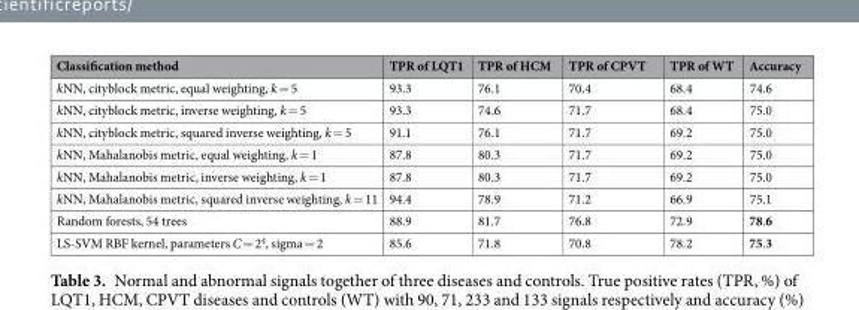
<table><thead><tr><td>Classification method</td><td>TPR of LQT1</td><td>TPR of HCM</td><td>TPR of CPVT</td><td>TPR of WT</td><td>Accuracy</td></tr></thead><tbody><tr><td>kNN, cityblock metric, equal weighting, k = 5</td><td>93.3</td><td>76.1</td><td>70.4</td><td>68.4</td><td>74.6</td></tr><tr><td>kNN, cityblock metric, inverse weighting, k = 5</td><td>93.3</td><td>74.6</td><td>71.7</td><td>68.4</td><td>75.0</td></tr><tr><td>kNN, cityblock metric, squared inverse weighting, k = 5</td><td>91.1</td><td>76.1</td><td>71.7</td><td>69.2</td><td>75.0</td></tr><tr><td>kNN, Mahalanobis metric, equal weighting, k = 1</td><td>87.8</td><td>80.3</td><td>71.7</td><td>69.2</td><td>75.0</td></tr><tr><td>kNN, Mahalanobis metric, inverse weighting, k = 1</td><td>87.8</td><td>80.3</td><td>71.7</td><td>69.2</td><td>75.0</td></tr><tr><td>kNN, Mahalanobis metric, squared inverse weighting, k = 11</td><td>94.4</td><td>78.9</td><td>71.2</td><td>66.9</td><td>75.1</td></tr><tr><td>Random forests, 54 trees</td><td>88.9</td><td>81.7</td><td>76.8</td><td>72.9</td><td>78.6</td></tr><tr><td>LS-SVM RBF kernel, parameters C = 2<sup>4</sup>, sigma = 2</td><td>85.6</td><td>71.8</td><td>70.8</td><td>78.2</td><td>75.3</td></tr></tbody></table>